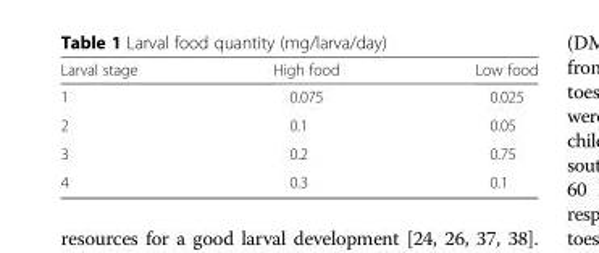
<table><thead><tr><td>Larval stage</td><td>High food</td><td>Low food</td></tr></thead><tbody><tr><td>1</td><td>0.075</td><td>0.025</td></tr><tr><td>2</td><td>0.1</td><td>0.05</td></tr><tr><td>3</td><td>0.2</td><td>0.75</td></tr><tr><td>4</td><td>0.3</td><td>0.1</td></tr></tbody></table>